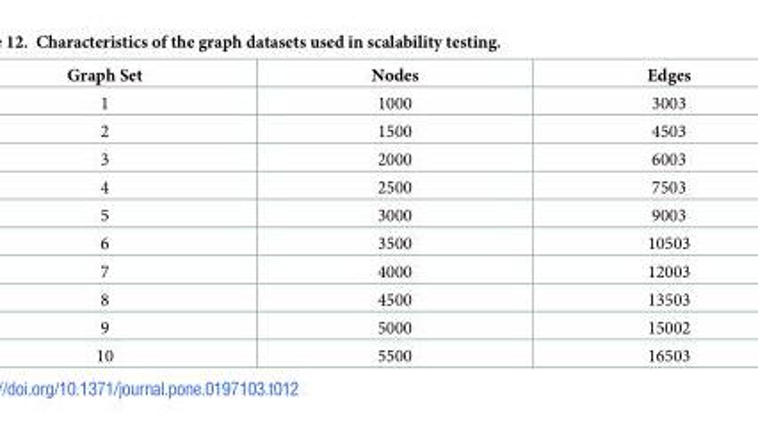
<table><thead><tr><td>Graph Set</td><td>Nodes</td><td>Edges</td></tr></thead><tbody><tr><td>1</td><td>1000</td><td>3003</td></tr><tr><td>2</td><td>1500</td><td>4503</td></tr><tr><td>3</td><td>2000</td><td>6003</td></tr><tr><td>4</td><td>2500</td><td>7503</td></tr><tr><td>5</td><td>3000</td><td>9003</td></tr><tr><td>6</td><td>3500</td><td>10503</td></tr><tr><td>7</td><td>4000</td><td>12003</td></tr><tr><td>8</td><td>4500</td><td>13503</td></tr><tr><td>9</td><td>5000</td><td>15002</td></tr><tr><td>10</td><td>5500</td><td>16503</td></tr></tbody></table>